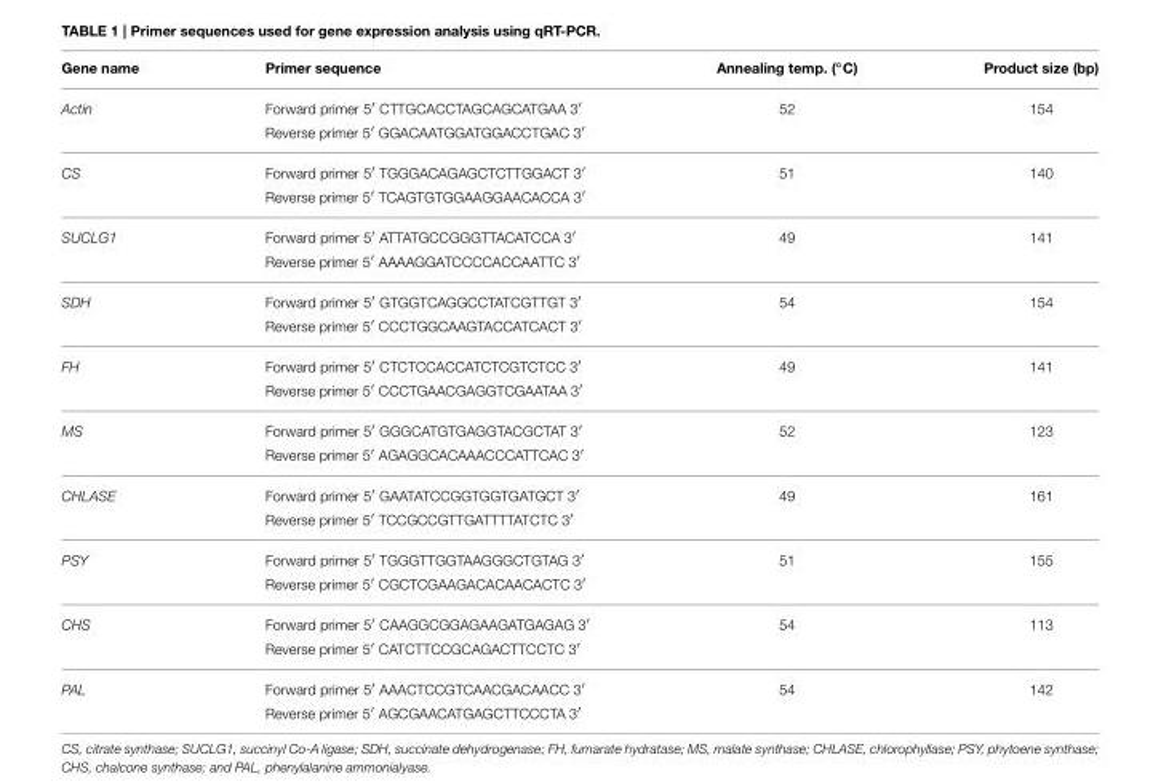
<table><thead><tr><td>Gene name</td><td>Primer sequence</td><td>Annealing temp. (◦C)</td><td>Product size (bp)</td></tr></thead><tbody><tr><td rowspan="2">Actin</td><td>Forward primer 5′ CTTGCACCTAGCAGCATGAA 3′</td><td>52</td><td>154</td></tr><tr><td>Reverse primer 5′ GGACAATGGATGGACCTGAC 3′</td><td></td><td></td></tr><tr><td rowspan="2">CS</td><td>Forward primer 5′ TGGGACAGAGCTCTTGGACT 3′</td><td>51</td><td>140</td></tr><tr><td>Reverse primer 5′ TCAGTGTGGAAGGAACACCA 3′</td><td></td><td></td></tr><tr><td rowspan="2">SUCLG1</td><td>Forward primer 5′ ATTATGCCGGGTTACATCCA 3′</td><td>49</td><td>141</td></tr><tr><td>Reverse primer 5′ AAAAGGATCCCCACCAATTC 3′</td><td></td><td></td></tr><tr><td rowspan="2">SDH</td><td>Forward primer 5′ GTGGTCAGGCCTATCGTTGT 3′</td><td>54</td><td>154</td></tr><tr><td>Reverse primer 5′ CCCTGGCAAGTACCATCACT 3′</td><td></td><td></td></tr><tr><td rowspan="2">FH</td><td>Forward primer 5′ CTCTCCACCATCTCGTCTCC 3′</td><td>49</td><td>141</td></tr><tr><td>Reverse primer 5′ CCCTGAACGAGGTCGAATAA 3′</td><td></td><td></td></tr><tr><td rowspan="2">MS</td><td>Forward primer 5′ GGGCATGTGAGGTACGCTAT 3′</td><td>52</td><td>123</td></tr><tr><td>Reverse primer 5′ AGAGGCACAAACCCATTCAC 3′</td><td></td><td></td></tr><tr><td rowspan="2">CHLASE</td><td>Forward primer 5′ GAATATCCGGTGGTGATGCT 3′</td><td>49</td><td>161</td></tr><tr><td>Reverse primer 5′ TCCGCCGTTGATTTTATCTC 3′</td><td></td><td></td></tr><tr><td rowspan="2">PSY</td><td>Forward primer 5′ TGGGTTGGTAAGGGCTGTAG 3′</td><td>51</td><td>155</td></tr><tr><td>Reverse primer 5′ CGCTCGAAGACACAACACTC 3′</td><td></td><td></td></tr><tr><td rowspan="2">CHS</td><td>Forward primer 5′ CAAGGCGGAGAAGATGAGAG 3′</td><td>54</td><td>113</td></tr><tr><td>Reverse primer 5′ CATCTTCCGCAGACTTCCTC 3′</td><td></td><td></td></tr><tr><td rowspan="2">PAL</td><td>Forward primer 5′ AAACTCCGTCAACGACAACC 3′</td><td>54</td><td>142</td></tr><tr><td>Reverse primer 5′ AGCGAACATGAGCTTCCCTA 3′</td><td></td><td></td></tr></tbody></table>